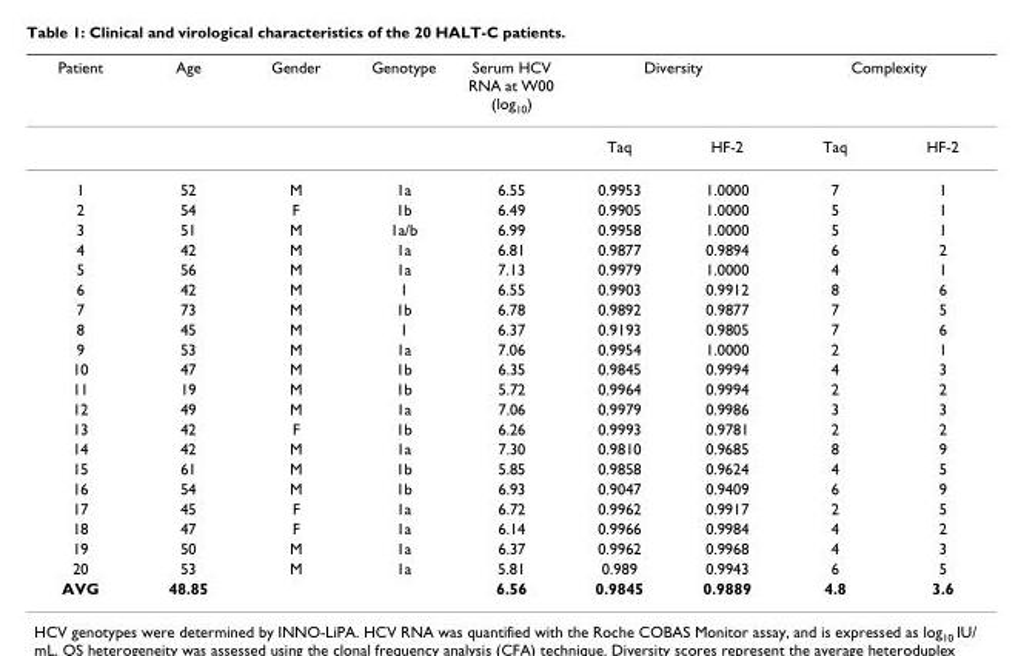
<table><thead><tr><td rowspan="2">Patient</td><td rowspan="2">Age</td><td rowspan="2">Gender</td><td rowspan="2">Genotype</td><td rowspan="2">Serum HCV RNA at W00 (log10)</td><td colspan="2">Diversity</td><td colspan="2">Complexity</td></tr><tr><td>Taq</td><td>HF-2</td><td>Taq</td><td>HF-2</td></tr></thead><tbody><tr><td>1</td><td>52</td><td>M</td><td>1a</td><td>6.55</td><td>0.9953</td><td>1.0000</td><td>7</td><td>1</td></tr><tr><td>2</td><td>54</td><td>F</td><td>1b</td><td>6.49</td><td>0.9905</td><td>1.0000</td><td>5</td><td>1</td></tr><tr><td>3</td><td>51</td><td>M</td><td>1a/b</td><td>6.99</td><td>0.9958</td><td>1.0000</td><td>5</td><td>1</td></tr><tr><td>4</td><td>42</td><td>M</td><td>1a</td><td>6.81</td><td>0.9877</td><td>0.9894</td><td>6</td><td>2</td></tr><tr><td>5</td><td>56</td><td>M</td><td>1a</td><td>7.13</td><td>0.9979</td><td>1.0000</td><td>4</td><td>1</td></tr><tr><td>6</td><td>42</td><td>M</td><td>1</td><td>6.55</td><td>0.9903</td><td>0.9912</td><td>8</td><td>6</td></tr><tr><td>7</td><td>73</td><td>M</td><td>1b</td><td>6.78</td><td>0.9892</td><td>0.9877</td><td>7</td><td>5</td></tr><tr><td>8</td><td>45</td><td>M</td><td>1</td><td>6.37</td><td>0.9193</td><td>0.9805</td><td>7</td><td>6</td></tr><tr><td>9</td><td>53</td><td>M</td><td>1a</td><td>7.06</td><td>0.9954</td><td>1.0000</td><td>2</td><td>1</td></tr><tr><td>10</td><td>47</td><td>M</td><td>1b</td><td>6.35</td><td>0.9845</td><td>0.9994</td><td>4</td><td>3</td></tr><tr><td>11</td><td>19</td><td>M</td><td>1b</td><td>5.72</td><td>0.9964</td><td>0.9994</td><td>2</td><td>2</td></tr><tr><td>12</td><td>49</td><td>M</td><td>1a</td><td>7.06</td><td>0.9979</td><td>0.9986</td><td>3</td><td>3</td></tr><tr><td>13</td><td>42</td><td>F</td><td>1b</td><td>6.26</td><td>0.9993</td><td>0.9781</td><td>2</td><td>2</td></tr><tr><td>14</td><td>42</td><td>M</td><td>1a</td><td>7.30</td><td>0.9810</td><td>0.9685</td><td>8</td><td>9</td></tr><tr><td>15</td><td>61</td><td>M</td><td>1b</td><td>5.85</td><td>0.9858</td><td>0.9624</td><td>4</td><td>5</td></tr><tr><td>16</td><td>54</td><td>M</td><td>1b</td><td>6.93</td><td>0.9047</td><td>0.9409</td><td>6</td><td>9</td></tr><tr><td>17</td><td>45</td><td>F</td><td>1a</td><td>6.72</td><td>0.9962</td><td>0.9917</td><td>2</td><td>5</td></tr><tr><td>18</td><td>47</td><td>F</td><td>1a</td><td>6.14</td><td>0.9966</td><td>0.9984</td><td>4</td><td>2</td></tr><tr><td>19</td><td>50</td><td>M</td><td>1a</td><td>6.37</td><td>0.9962</td><td>0.9968</td><td>4</td><td>3</td></tr><tr><td>20</td><td>53</td><td>M</td><td>1a</td><td>5.81</td><td>0.989</td><td>0.9943</td><td>6</td><td>5</td></tr><tr><td>AVG</td><td>48.85</td><td></td><td></td><td>6.56</td><td>0.9845</td><td>0.9889</td><td>4.8</td><td>3.6</td></tr></tbody></table>